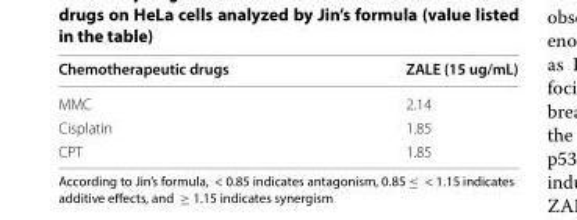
<table><thead><tr><td>Chemotherapeutic drugs</td><td>ZALE (15 ug/mL)</td></tr></thead><tbody><tr><td>MMC</td><td>2.14</td></tr><tr><td>Cisplatin</td><td>1.85</td></tr><tr><td>CPT</td><td>1.85</td></tr></tbody></table>